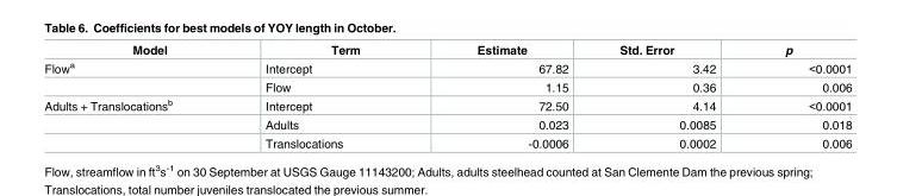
<table><thead><tr><td>Model</td><td>Term</td><td>Estimate</td><td>Std. Error</td><td>p</td></tr></thead><tbody><tr><td rowspan="2">Flow<sup>a</sup></td><td>Intercept</td><td>67.82</td><td>3.42</td><td>&lt;0.0001</td></tr><tr><td>Flow</td><td>1.15</td><td>0.36</td><td>0.006</td></tr><tr><td rowspan="3">Adults + Translocations<sup>b</sup></td><td>Intercept</td><td>72.50</td><td>4.14</td><td>&lt;0.0001</td></tr><tr><td>Adults</td><td>0.023</td><td>0.0085</td><td>0.018</td></tr><tr><td>Translocations</td><td>-0.0006</td><td>0.0002</td><td>0.006</td></tr></tbody></table>